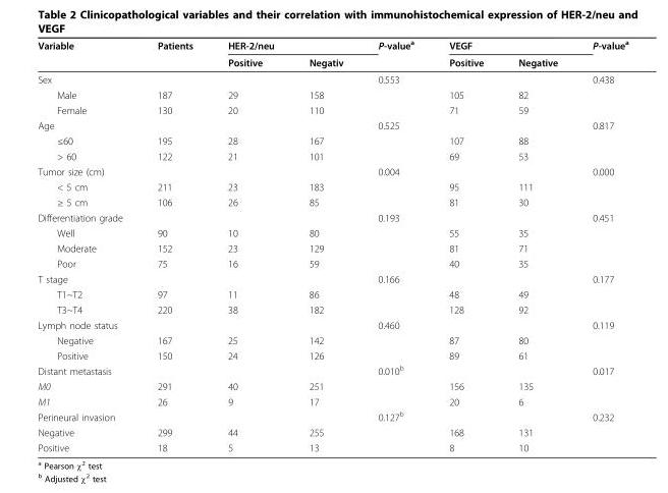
<table><thead><tr><td rowspan="2">Variable</td><td rowspan="2">Patients</td><td rowspan="2">HER-2/neu Positive</td><td rowspan="2">Negativ</td><td rowspan="2">P-value<sup>a</sup></td><td rowspan="2">VEGF Positive</td><td rowspan="2">Negative</td><td rowspan="2">P-value<sup>a</sup></td></tr><tr></tr></thead><tbody><tr><td>Sex</td><td></td><td></td><td></td><td>0.553</td><td></td><td></td><td>0.438</td></tr><tr><td>Male</td><td>187</td><td>29</td><td>158</td><td></td><td>105</td><td>82</td><td></td></tr><tr><td>Female</td><td>130</td><td>20</td><td>110</td><td></td><td>71</td><td>59</td><td></td></tr><tr><td>Age</td><td></td><td></td><td></td><td>0.525</td><td></td><td></td><td>0.817</td></tr><tr><td>≤60</td><td>195</td><td>28</td><td>167</td><td></td><td>107</td><td>88</td><td></td></tr><tr><td>&gt; 60</td><td>122</td><td>21</td><td>101</td><td></td><td>69</td><td>53</td><td></td></tr><tr><td>Tumor size (cm)</td><td></td><td></td><td></td><td>0.004</td><td></td><td></td><td>0.000</td></tr><tr><td>&lt; 5 cm</td><td>211</td><td>23</td><td>183</td><td></td><td>95</td><td>111</td><td></td></tr><tr><td>≥ 5 cm</td><td>106</td><td>26</td><td>85</td><td></td><td>81</td><td>30</td><td></td></tr><tr><td>Differentiation grade</td><td></td><td></td><td></td><td>0.193</td><td></td><td></td><td>0.451</td></tr><tr><td>Well</td><td>90</td><td>10</td><td>80</td><td></td><td>55</td><td>35</td><td></td></tr><tr><td>Moderate</td><td>152</td><td>23</td><td>129</td><td></td><td>81</td><td>71</td><td></td></tr><tr><td>Poor</td><td>75</td><td>16</td><td>59</td><td></td><td>40</td><td>35</td><td></td></tr><tr><td>T stage</td><td></td><td></td><td></td><td>0.166</td><td></td><td></td><td>0.177</td></tr><tr><td>T1~T2</td><td>97</td><td>11</td><td>86</td><td></td><td>48</td><td>49</td><td></td></tr><tr><td>T3~T4</td><td>220</td><td>38</td><td>182</td><td></td><td>128</td><td>92</td><td></td></tr><tr><td>Lymph node status</td><td></td><td></td><td></td><td>0.460</td><td></td><td></td><td>0.119</td></tr><tr><td>Negative</td><td>167</td><td>25</td><td>142</td><td></td><td>87</td><td>80</td><td></td></tr><tr><td>Positive</td><td>150</td><td>24</td><td>126</td><td></td><td>89</td><td>61</td><td></td></tr><tr><td>Distant metastasis</td><td></td><td></td><td></td><td>0.010<sup>b</sup></td><td></td><td></td><td>0.017</td></tr><tr><td>M0</td><td>291</td><td>40</td><td>251</td><td></td><td>156</td><td>135</td><td></td></tr><tr><td>M1</td><td>26</td><td>9</td><td>17</td><td></td><td>20</td><td>6</td><td></td></tr><tr><td>Perineural invasion</td><td></td><td></td><td></td><td>0.127<sup>b</sup></td><td></td><td></td><td>0.232</td></tr><tr><td>Negative</td><td>299</td><td>44</td><td>255</td><td></td><td>168</td><td>131</td><td></td></tr><tr><td>Positive</td><td>18</td><td>5</td><td>13</td><td></td><td>8</td><td>10</td><td></td></tr></tbody></table>